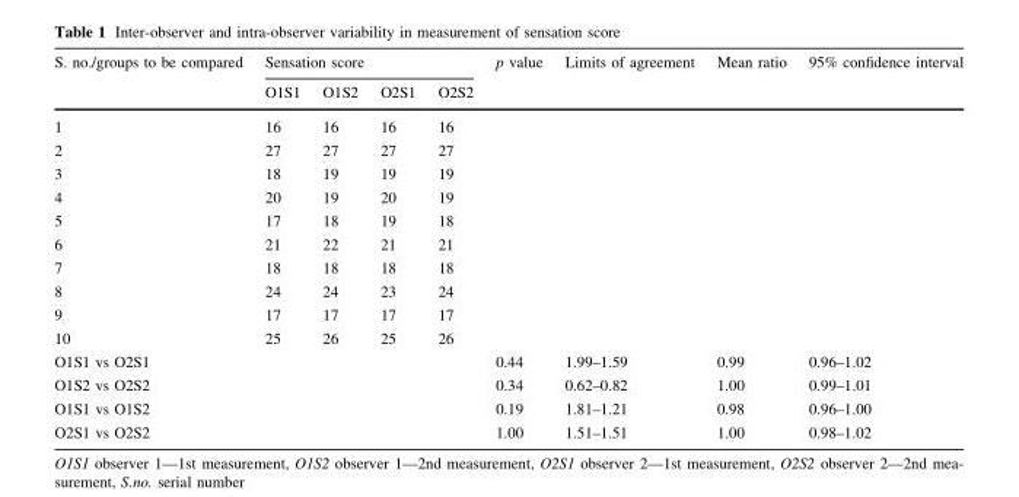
<table><thead><tr><td rowspan="2">S. no./groups to be compared</td><td colspan="4">Sensation score</td><td rowspan="2">p value</td><td rowspan="2">Limits of agreement</td><td rowspan="2">Mean ratio</td><td rowspan="2">95% confidence interval</td></tr><tr><td>O1S1</td><td>O1S2</td><td>O2S1</td><td>O2S2</td></tr></thead><tbody><tr><td>1</td><td>16</td><td>16</td><td>16</td><td>16</td><td></td><td></td><td></td><td></td></tr><tr><td>2</td><td>27</td><td>27</td><td>27</td><td>27</td><td></td><td></td><td></td><td></td></tr><tr><td>3</td><td>18</td><td>19</td><td>19</td><td>19</td><td></td><td></td><td></td><td></td></tr><tr><td>4</td><td>20</td><td>19</td><td>20</td><td>19</td><td></td><td></td><td></td><td></td></tr><tr><td>5</td><td>17</td><td>18</td><td>19</td><td>18</td><td></td><td></td><td></td><td></td></tr><tr><td>6</td><td>21</td><td>22</td><td>21</td><td>21</td><td></td><td></td><td></td><td></td></tr><tr><td>7</td><td>18</td><td>18</td><td>18</td><td>18</td><td></td><td></td><td></td><td></td></tr><tr><td>8</td><td>24</td><td>24</td><td>23</td><td>24</td><td></td><td></td><td></td><td></td></tr><tr><td>9</td><td>17</td><td>17</td><td>17</td><td>17</td><td></td><td></td><td></td><td></td></tr><tr><td>10</td><td>25</td><td>26</td><td>25</td><td>26</td><td></td><td></td><td></td><td></td></tr><tr><td>O1S1 vs O2S1</td><td></td><td></td><td></td><td></td><td>0.44</td><td>1.99–1.59</td><td>0.99</td><td>0.96–1.02</td></tr><tr><td>O1S2 vs O2S2</td><td></td><td></td><td></td><td></td><td>0.34</td><td>0.62–0.82</td><td>1.00</td><td>0.99–1.01</td></tr><tr><td>O1S1 vs O1S2</td><td></td><td></td><td></td><td></td><td>0.19</td><td>1.81–1.21</td><td>0.98</td><td>0.96–1.00</td></tr><tr><td>O2S1 vs O2S2</td><td></td><td></td><td></td><td></td><td>1.00</td><td>1.51–1.51</td><td>1.00</td><td>0.98–1.02</td></tr></tbody></table>